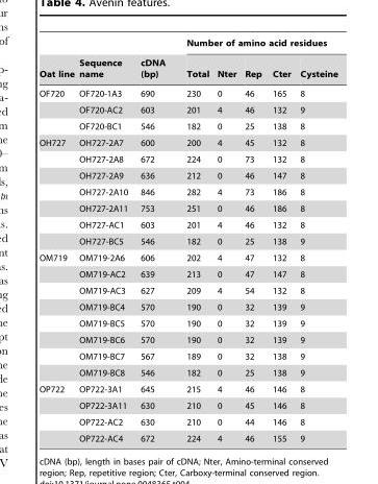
<table><thead><tr><td rowspan="2">Oat line</td><td rowspan="2">Sequence name</td><td rowspan="2">cDNA (bp)</td><td colspan="5">Number of amino acid residues</td></tr><tr><td>Total</td><td>Nter</td><td>Rep</td><td>Cter</td><td>Cysteine</td></tr></thead><tbody><tr><td rowspan="3">OF720</td><td>OF720-1A3</td><td>690</td><td>230</td><td>0</td><td>46</td><td>165</td><td>8</td></tr><tr><td>OF720-AC2</td><td>603</td><td>201</td><td>4</td><td>46</td><td>132</td><td>9</td></tr><tr><td>OF720-BC1</td><td>546</td><td>182</td><td>0</td><td>25</td><td>138</td><td>8</td></tr><tr><td rowspan="7">OH727</td><td>OH727-2A7</td><td>600</td><td>200</td><td>4</td><td>45</td><td>132</td><td>8</td></tr><tr><td>OH727-2A8</td><td>672</td><td>224</td><td>0</td><td>73</td><td>132</td><td>8</td></tr><tr><td>OH727-2A9</td><td>636</td><td>212</td><td>0</td><td>46</td><td>147</td><td>8</td></tr><tr><td>OH727-2A10</td><td>846</td><td>282</td><td>4</td><td>73</td><td>186</td><td>8</td></tr><tr><td>OH727-2A11</td><td>753</td><td>251</td><td>0</td><td>46</td><td>186</td><td>8</td></tr><tr><td>OH727-AC1</td><td>603</td><td>201</td><td>4</td><td>46</td><td>132</td><td>8</td></tr><tr><td>OH727-BC5</td><td>546</td><td>182</td><td>0</td><td>25</td><td>138</td><td>9</td></tr><tr><td rowspan="8">OM719</td><td>OM719-2A6</td><td>606</td><td>202</td><td>4</td><td>47</td><td>132</td><td>8</td></tr><tr><td>OM719-AC2</td><td>639</td><td>213</td><td>0</td><td>47</td><td>147</td><td>8</td></tr><tr><td>OM719-AC3</td><td>627</td><td>209</td><td>4</td><td>54</td><td>132</td><td>8</td></tr><tr><td>OM719-BC4</td><td>570</td><td>190</td><td>0</td><td>32</td><td>139</td><td>9</td></tr><tr><td>OM719-BC5</td><td>570</td><td>190</td><td>0</td><td>32</td><td>139</td><td>9</td></tr><tr><td>OM719-BC6</td><td>570</td><td>190</td><td>0</td><td>32</td><td>139</td><td>9</td></tr><tr><td>OM719-BC7</td><td>567</td><td>189</td><td>0</td><td>32</td><td>138</td><td>9</td></tr><tr><td>OM719-BC8</td><td>546</td><td>182</td><td>0</td><td>25</td><td>138</td><td>9</td></tr><tr><td rowspan="4">OP722</td><td>OP722-3A1</td><td>645</td><td>215</td><td>4</td><td>46</td><td>146</td><td>8</td></tr><tr><td>OP722-3A11</td><td>630</td><td>210</td><td>0</td><td>45</td><td>146</td><td>8</td></tr><tr><td>OP722-AC2</td><td>630</td><td>210</td><td>0</td><td>44</td><td>146</td><td>8</td></tr><tr><td>OP722-AC4</td><td>672</td><td>224</td><td>4</td><td>46</td><td>155</td><td>9</td></tr></tbody></table>